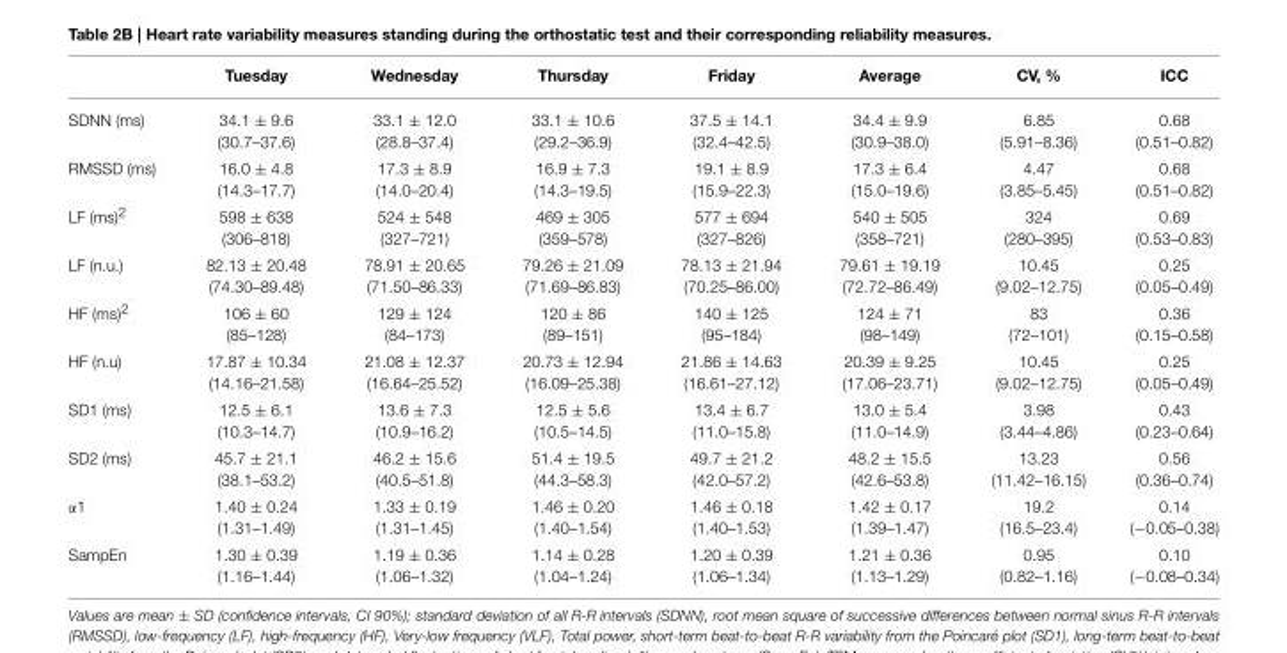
<table><thead><tr><td></td><td>Tuesday</td><td>Wednesday</td><td>Thursday</td><td>Friday</td><td>Average</td><td>CV, %</td><td>ICC</td></tr></thead><tbody><tr><td>SDNN (ms)</td><td>34.1 ± 9.6 (30.7–37.6)</td><td>33.1 ± 12.0 (28.8–37.4)</td><td>33.1 ± 10.6 (29.2–36.9)</td><td>37.5 ± 14.1 (32.4–42.5)</td><td>34.4 ± 9.9 (30.9–38.0)</td><td>6.85 (5.91–8.36)</td><td>0.68 (0.51–0.82)</td></tr><tr><td>RMSSD (ms)</td><td>16.0 ± 4.8 (14.3–17.7)</td><td>17.3 ± 8.9 (14.0–20.4)</td><td>16.9 ± 7.3 (14.3–19.5)</td><td>19.1 ± 8.9 (15.9–22.3)</td><td>17.3 ± 6.4 (15.0–19.6)</td><td>4.47 (3.85–5.45)</td><td>0.68 (0.51–0.82)</td></tr><tr><td>LF (ms)<sup>2</sup></td><td>598 ± 638 (306–818)</td><td>524 ± 548 (327–721)</td><td>469 ± 305 (359–578)</td><td>577 ± 694 (327–826)</td><td>540 ± 505 (358–721)</td><td>324 (280–395)</td><td>0.69 (0.53–0.83)</td></tr><tr><td>LF (n.u.)</td><td>82.13 ± 20.48 (74.30–89.48)</td><td>78.91 ± 20.65 (71.50–86.33)</td><td>79.26 ± 21.09 (71.69–86.83)</td><td>78.13 ± 21.94 (70.25–86.00)</td><td>79.61 ± 19.19 (72.72–86.49)</td><td>10.45 (9.02–12.75)</td><td>0.25 (0.05–0.49)</td></tr><tr><td>HF (ms)<sup>2</sup></td><td>106 ± 60 (85–128)</td><td>129 ± 124 (84–173)</td><td>120 ± 86 (89–151)</td><td>140 ± 125 (95–184)</td><td>124 ± 71 (98–149)</td><td>83 (72–101)</td><td>0.36 (0.15–0.58)</td></tr><tr><td>HF (n.u)</td><td>17.87 ± 10.34 (14.16–21.58)</td><td>21.08 ± 12.37 (16.64–25.52)</td><td>20.73 ± 12.94 (16.09–25.38)</td><td>21.86 ± 14.63 (16.61–27.12)</td><td>20.39 ± 9.25 (17.06–23.71)</td><td>10.45 (9.02–12.75)</td><td>0.25 (0.05–0.49)</td></tr><tr><td>SD1 (ms)</td><td>12.5 ± 6.1 (10.3–14.7)</td><td>13.6 ± 7.3 (10.9–16.2)</td><td>12.5 ± 5.6 (10.5–14.5)</td><td>13.4 ± 6.7 (11.0–15.8)</td><td>13.0 ± 5.4 (11.0–14.9)</td><td>3.98 (3.44–4.86)</td><td>0.43 (0.23–0.64)</td></tr><tr><td>SD2 (ms)</td><td>45.7 ± 21.1 (38.1–53.2)</td><td>46.2 ± 15.6 (40.5–51.8)</td><td>51.4 ± 19.5 (44.3–58.3)</td><td>49.7 ± 21.2 (42.0–57.2)</td><td>48.2 ± 15.5 (42.6–53.8)</td><td>13.23 (11.42–16.15)</td><td>0.56 (0.36–0.74)</td></tr><tr><td>α1</td><td>1.40 ± 0.24 (1.31–1.49)</td><td>1.33 ± 0.19 (1.31–1.45)</td><td>1.46 ± 0.20 (1.40–1.54)</td><td>1.46 ± 0.18 (1.40–1.53)</td><td>1.42 ± 0.17 (1.39–1.47)</td><td>19.2 (16.5–23.4)</td><td>0.14 (−0.05–0.38)</td></tr><tr><td>SampEn</td><td>1.30 ± 0.39 (1.16–1.44)</td><td>1.19 ± 0.36 (1.06–1.32)</td><td>1.14 ± 0.28 (1.04–1.24)</td><td>1.20 ± 0.39 (1.06–1.34)</td><td>1.21 ± 0.36 (1.13–1.29)</td><td>0.95 (0.82–1.16)</td><td>0.10 (−0.08–0.34)</td></tr></tbody></table>